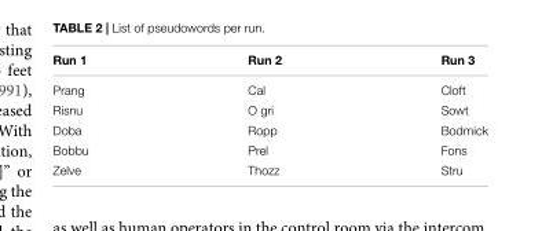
<table><thead><tr><td>Run 1</td><td>Run 2</td><td>Run 3</td></tr></thead><tbody><tr><td>Prang</td><td>Cal</td><td>Cloft</td></tr><tr><td>Risnu</td><td>O gri</td><td>Sowt</td></tr><tr><td>Doba</td><td>Ropp</td><td>Bodmick</td></tr><tr><td>Bobbu</td><td>Prel</td><td>Fons</td></tr><tr><td>Zelve</td><td>Thozz</td><td>Stru</td></tr></tbody></table>